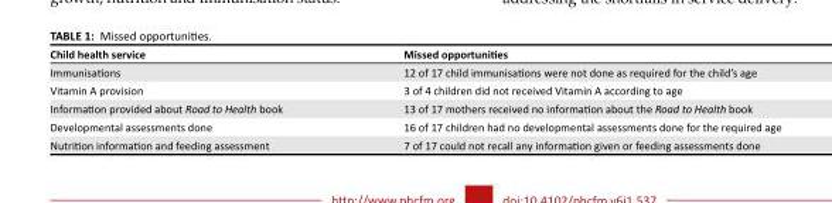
<table><thead><tr><td>Child health service</td><td>Missed opportunities</td></tr></thead><tbody><tr><td>Immunisations</td><td>12 of 17 child immunisations were not done as required for the child’s age</td></tr><tr><td>Vitamin A provision</td><td>3 of 4 children did not received Vitamin A according to age</td></tr><tr><td>Information provided about Road to Health book</td><td>13 of 17 mothers received no information about the Road to Health book</td></tr><tr><td>Developmental assessments done</td><td>16 of 17 children had no developmental assessments done for the required age</td></tr><tr><td>Nutrition information and feeding assessment</td><td>7 of 17 could not recall any information given or feeding assessments done</td></tr></tbody></table>